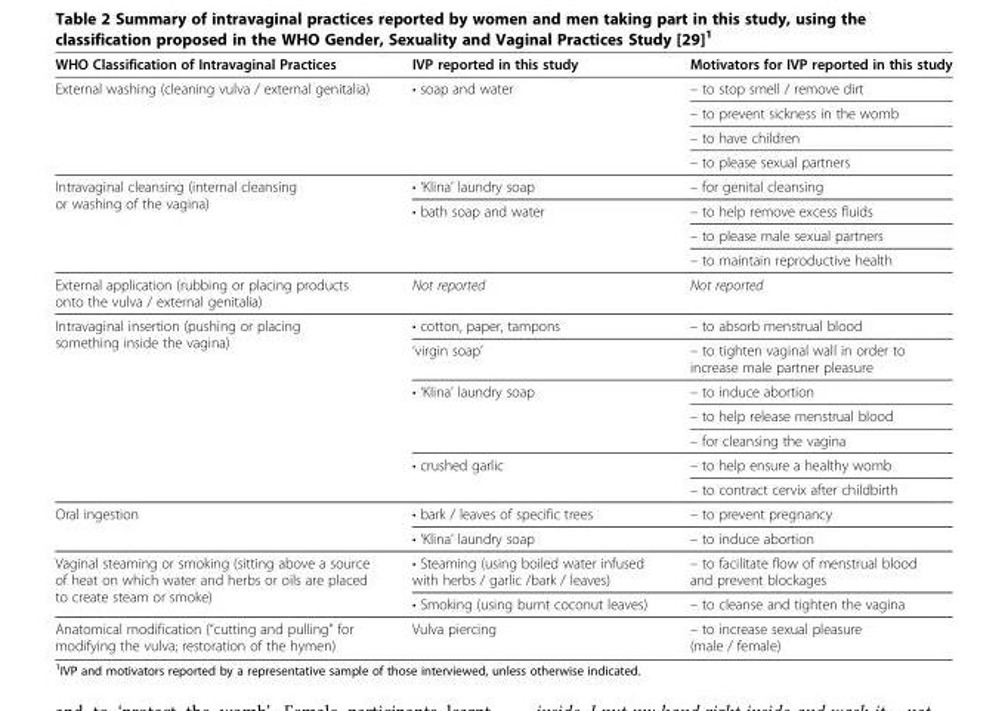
<table><thead><tr><td>WHO Classification of Intravaginal Practices</td><td>IVP reported in this study</td><td>Motivators for IVP reported in this study</td></tr></thead><tbody><tr><td rowspan="4">External washing (cleaning vulva / external genitalia)</td><td rowspan="4">• soap and water</td><td>– to stop smell / remove dirt</td></tr><tr><td>– to prevent sickness in the womb</td></tr><tr><td>– to have children</td></tr><tr><td>– to please sexual partners</td></tr><tr><td rowspan="4">Intravaginal cleansing (internal cleansing or washing of the vagina)</td><td>• ‘Klina’ laundry soap</td><td>– for genital cleansing</td></tr><tr><td rowspan="3">• bath soap and water</td><td>– to help remove excess fluids</td></tr><tr><td>– to please male sexual partners</td></tr><tr><td>– to maintain reproductive health</td></tr><tr><td>External application (rubbing or placing products onto the vulva / external genitalia)</td><td>Not reported</td><td>Not reported</td></tr><tr><td rowspan="7">Intravaginal insertion (pushing or placing something inside the vagina)</td><td>• cotton, paper, tampons</td><td>– to absorb menstrual blood</td></tr><tr><td>‘virgin soap’</td><td>– to tighten vaginal wall in order to increase male partner pleasure</td></tr><tr><td rowspan="3">• ‘Klina’ laundry soap</td><td>– to induce abortion</td></tr><tr><td>– to help release menstrual blood</td></tr><tr><td>– for cleansing the vagina</td></tr><tr><td rowspan="2">• crushed garlic</td><td>– to help ensure a healthy womb</td></tr><tr><td>– to contract cervix after childbirth</td></tr><tr><td rowspan="2">Oral ingestion</td><td>• bark / leaves of specific trees</td><td>– to prevent pregnancy</td></tr><tr><td>• ‘Klina’ laundry soap</td><td>– to induce abortion</td></tr><tr><td rowspan="2">Vaginal steaming or smoking (sitting above a source of heat on which water and herbs or oils are placed to create steam or smoke)</td><td>• Steaming (using boiled water infused with herbs / garlic /bark / leaves)</td><td>– to facilitate flow of menstrual blood and prevent blockages</td></tr><tr><td>• Smoking (using burnt coconut leaves)</td><td>– to cleanse and tighten the vagina</td></tr><tr><td>Anatomical modification (“cutting and pulling” for modifying the vulva; restoration of the hymen)</td><td>Vulva piercing</td><td>– to increase sexual pleasure (male / female)</td></tr></tbody></table>